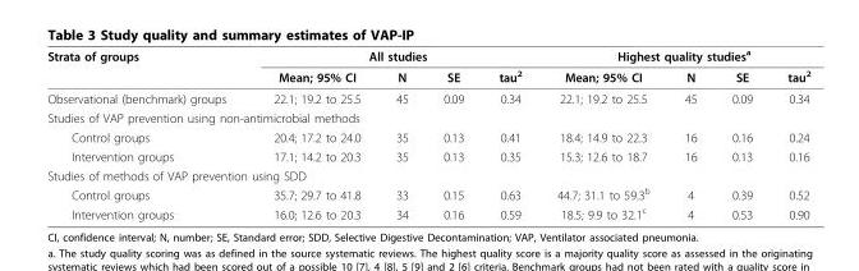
<table><thead><tr><td rowspan="2">Strata of groups</td><td colspan="4">All studies</td><td colspan="4">Highest quality studies<sup>a</sup></td></tr><tr><td>Mean; 95% CI</td><td>N</td><td>SE</td><td>tau<sup>2</sup></td><td>Mean; 95% CI</td><td>N</td><td>SE</td><td>tau<sup>2</sup></td></tr></thead><tbody><tr><td>Observational (benchmark) groups</td><td>22.1; 19.2 to 25.5</td><td>45</td><td>0.09</td><td>0.34</td><td>22.1; 19.2 to 25.5</td><td>45</td><td>0.09</td><td>0.34</td></tr><tr><td colspan="9">Studies of VAP prevention using non-antimicrobial methods</td></tr><tr><td>Control groups</td><td>20.4; 17.2 to 24.0</td><td>35</td><td>0.13</td><td>0.41</td><td>18.4; 14.9 to 22.3</td><td>16</td><td>0.16</td><td>0.24</td></tr><tr><td>Intervention groups</td><td>17.1; 14.2 to 20.3</td><td>35</td><td>0.13</td><td>0.35</td><td>15.3; 12.6 to 18.7</td><td>16</td><td>0.13</td><td>0.16</td></tr><tr><td colspan="9">Studies of methods of VAP prevention using SDD</td></tr><tr><td>Control groups</td><td>35.7; 29.7 to 41.8</td><td>33</td><td>0.15</td><td>0.63</td><td>44.7; 31.1 to 59.3<sup>b</sup></td><td>4</td><td>0.39</td><td>0.52</td></tr><tr><td>Intervention groups</td><td>16.0; 12.6 to 20.3</td><td>34</td><td>0.16</td><td>0.59</td><td>18.5; 9.9 to 32.1<sup>c</sup></td><td>4</td><td>0.53</td><td>0.90</td></tr></tbody></table>